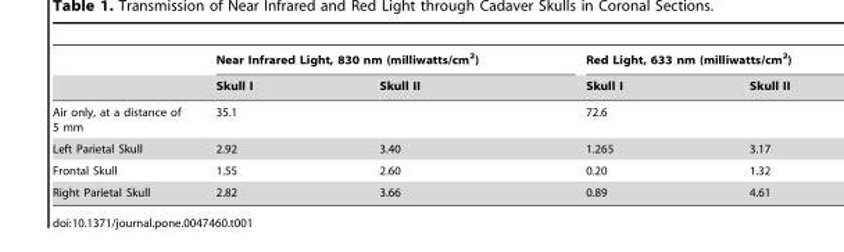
<table><thead><tr><td rowspan="2"></td><td colspan="2">Near Infrared Light, 830 nm (milliwatts/cm<sup>2</sup>)</td><td colspan="2">Red Light, 633 nm (milliwatts/cm<sup>2</sup>)</td></tr><tr><td>Skull I</td><td>Skull II</td><td>Skull I</td><td>Skull II</td></tr></thead><tbody><tr><td>Air only, at a distance of 5 mm</td><td colspan="2">35.1</td><td colspan="2">72.6</td></tr><tr><td>Left Parietal Skull</td><td>2.92</td><td>3.40</td><td>1.265</td><td>3.17</td></tr><tr><td>Frontal Skull</td><td>1.55</td><td>2.60</td><td>0.20</td><td>1.32</td></tr><tr><td>Right Parietal Skull</td><td>2.82</td><td>3.66</td><td>0.89</td><td>4.61</td></tr></tbody></table>